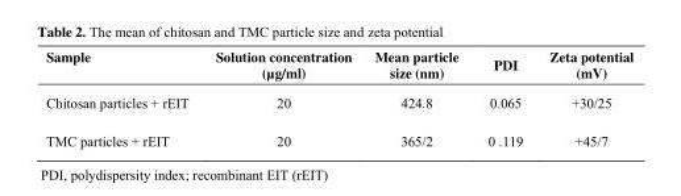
<table><thead><tr><td>Sample</td><td>Solution concentration (µg/ml)</td><td>Mean particle size (nm)</td><td>PDI</td><td>Zeta potential (mV)</td></tr></thead><tbody><tr><td>Chitosan particles + rEIT</td><td>20</td><td>424.8</td><td>0.065</td><td>+30/25</td></tr><tr><td>TMC particles + rEIT</td><td>20</td><td>365/2</td><td>0 .119</td><td>+45/7</td></tr></tbody></table>